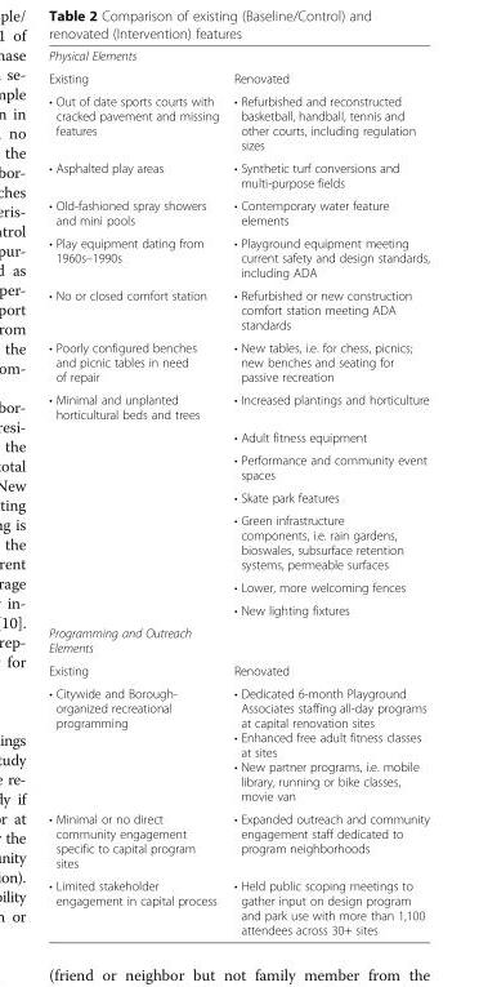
<table><tbody><tr><td colspan="2">Physical Elements</td></tr><tr><td>Existing</td><td>Renovated</td></tr><tr><td>• Out of date sports courts with cracked pavement and missing features</td><td>• Refurbished and reconstructed basketball, handball, tennis and other courts, including regulation sizes</td></tr><tr><td>• Asphalted play areas</td><td>• Synthetic turf conversions and multi-purpose fields</td></tr><tr><td>• Old-fashioned spray showers and mini pools</td><td>• Contemporary water feature elements</td></tr><tr><td>• Play equipment dating from 1960s–1990s</td><td>• Playground equipment meeting current safety and design standards, including ADA</td></tr><tr><td>• No or closed comfort station</td><td>• Refurbished or new construction comfort station meeting ADA standards</td></tr><tr><td>• Poorly configured benches and picnic tables in need of repair</td><td>• New tables, i.e. for chess, picnics; new benches and seating for passive recreation</td></tr><tr><td rowspan="7">• Minimal and unplanted horticultural beds and trees</td><td>• Increased plantings and horticulture</td></tr><tr><td>• Adult fitness equipment</td></tr><tr><td>• Performance and community event spaces</td></tr><tr><td>• Skate park features</td></tr><tr><td>• Green infrastructure components, i.e. rain gardens, bioswales, subsurface retention systems, permeable surfaces</td></tr><tr><td>• Lower, more welcoming fences</td></tr><tr><td>• New lighting fixtures</td></tr><tr><td colspan="2">Programming and Outreach Elements</td></tr><tr><td>Existing</td><td>Renovated</td></tr><tr><td>• Citywide and Borough- organized recreational programming</td><td>• Dedicated 6-month Playground Associates staffing all-day programs at capital renovation sites • Enhanced free adult fitness classes at sites • New partner programs, i.e. mobile library, running or bike classes, movie van</td></tr><tr><td>• Minimal or no direct community engagement specific to capital program sites</td><td>• Expanded outreach and community engagement staff dedicated to program neighborhoods</td></tr><tr><td>• Limited stakeholder engagement in capital process</td><td>• Held public scoping meetings to gather input on design program and park use with more than 1,100 attendees across 30+ sites</td></tr></tbody></table>